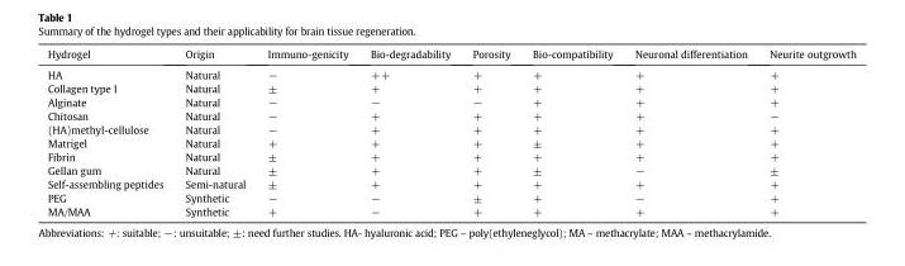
<table><thead><tr><td>Hydrogel</td><td>Origin</td><td>Immuno-genicity</td><td>Bio-degradability</td><td>Porosity</td><td>Bio-compatibility</td><td>Neuronal differentiation</td><td>Neurite outgrowth</td></tr></thead><tbody><tr><td>HA</td><td>Natural</td><td>−</td><td>++</td><td>+</td><td>+</td><td>+</td><td>+</td></tr><tr><td>Collagen type I</td><td>Natural</td><td>±</td><td>+</td><td>+</td><td>+</td><td>+</td><td>+</td></tr><tr><td>Alginate</td><td>Natural</td><td>−</td><td>−</td><td>−</td><td>+</td><td>+</td><td>+</td></tr><tr><td>Chitosan</td><td>Natural</td><td>−</td><td>+</td><td>+</td><td>+</td><td>+</td><td>−</td></tr><tr><td>(HA)methyl-cellulose</td><td>Natural</td><td>−</td><td>+</td><td>+</td><td>+</td><td>+</td><td>+</td></tr><tr><td>Matrigel</td><td>Natural</td><td>+</td><td>+</td><td>+</td><td>±</td><td>+</td><td>+</td></tr><tr><td>Fibrin</td><td>Natural</td><td>±</td><td>+</td><td>+</td><td>+</td><td>+</td><td>+</td></tr><tr><td>Gellan gum</td><td>Natural</td><td>±</td><td>+</td><td>+</td><td>±</td><td>−</td><td>±</td></tr><tr><td>Self-assembling peptides</td><td>Semi-natural</td><td>±</td><td>+</td><td>+</td><td>+</td><td>+</td><td>+</td></tr><tr><td>PEG</td><td>Synthetic</td><td>−</td><td>−</td><td>±</td><td>+</td><td>−</td><td>+</td></tr><tr><td>MA/MAA</td><td>Synthetic</td><td>+</td><td>−</td><td>+</td><td>+</td><td>+</td><td>+</td></tr></tbody></table>